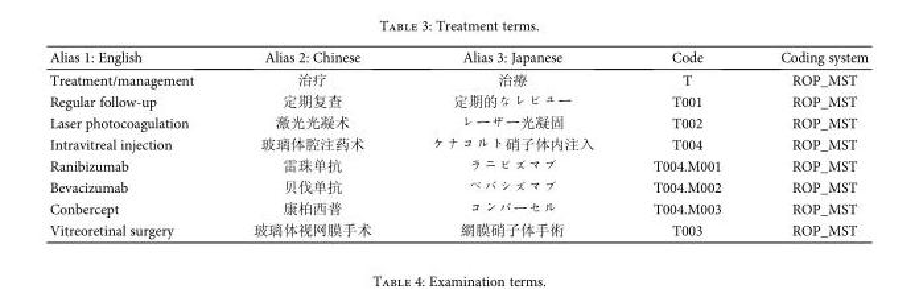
<table><thead><tr><td>Alias 1: English</td><td>Alias 2: Chinese</td><td>Alias 3: Japanese</td><td>Code</td><td>Coding system</td></tr></thead><tbody><tr><td>Treatment/management</td><td>治疗</td><td>治療</td><td>T</td><td>ROP_MST</td></tr><tr><td>Regular follow-up</td><td>定期复查</td><td>定期的なレビュー</td><td>T001</td><td>ROP_MST</td></tr><tr><td>Laser photocoagulation</td><td>激光光凝术</td><td>レーザー光凝固</td><td>T002</td><td>ROP_MST</td></tr><tr><td>Intravitreal injection</td><td>玻璃体腔注药术</td><td>ケナコルト硝子体内注入</td><td>T004</td><td>ROP_MST</td></tr><tr><td>Ranibizumab</td><td>雷珠单抗</td><td>ラニビズマブ</td><td>T004.M001</td><td>ROP_MST</td></tr><tr><td>Bevacizumab</td><td>贝伐单抗</td><td>ベバシズマブ</td><td>T004.M002</td><td>ROP_MST</td></tr><tr><td>Conbercept</td><td>康柏西普</td><td>コンバーセル</td><td>T004.M003</td><td>ROP_MST</td></tr><tr><td>Vitreoretinal surgery</td><td>玻璃体视网膜手术</td><td>網膜硝子体手術</td><td>T003</td><td>ROP_MST</td></tr></tbody></table>